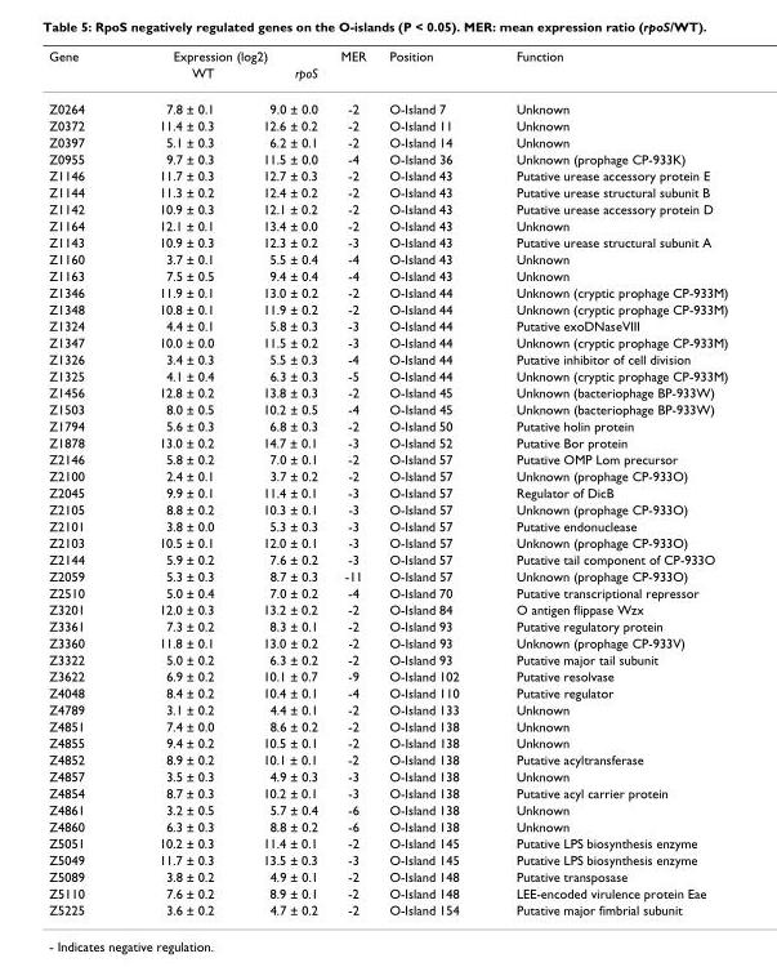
<table><thead><tr><td rowspan="2">Gene</td><td colspan="2">Expression (log2)</td><td rowspan="2">MER</td><td rowspan="2">Position</td><td rowspan="2">Function</td></tr><tr><td>WT</td><td>rpoS</td></tr></thead><tbody><tr><td>Z0264</td><td>7.8 ± 0.1</td><td>9.0 ± 0.0</td><td>-2</td><td>O-Island 7</td><td>Unknown</td></tr><tr><td>Z0372</td><td>11.4 ± 0.3</td><td>12.6 ± 0.2</td><td>-2</td><td>O-Island 11</td><td>Unknown</td></tr><tr><td>Z0397</td><td>5.1 ± 0.3</td><td>6.2 ± 0.1</td><td>-2</td><td>O-Island 14</td><td>Unknown</td></tr><tr><td>Z0955</td><td>9.7 ± 0.3</td><td>11.5 ± 0.0</td><td>-4</td><td>O-Island 36</td><td>Unknown (prophage CP-933K)</td></tr><tr><td>Z1146</td><td>11.7 ± 0.3</td><td>12.7 ± 0.3</td><td>-2</td><td>O-Island 43</td><td>Putative urease accessory protein E</td></tr><tr><td>Z1144</td><td>11.3 ± 0.2</td><td>12.4 ± 0.2</td><td>-2</td><td>O-Island 43</td><td>Putative urease structural subunit B</td></tr><tr><td>Z1142</td><td>10.9 ± 0.3</td><td>12.1 ± 0.2</td><td>-2</td><td>O-Island 43</td><td>Putative urease accessory protein D</td></tr><tr><td>Z1164</td><td>12.1 ± 0.1</td><td>13.4 ± 0.0</td><td>-2</td><td>O-Island 43</td><td>Unknown</td></tr><tr><td>Z1143</td><td>10.9 ± 0.3</td><td>12.3 ± 0.2</td><td>-3</td><td>O-Island 43</td><td>Putative urease structural subunit A</td></tr><tr><td>Z1160</td><td>3.7 ± 0.1</td><td>5.5 ± 0.4</td><td>-4</td><td>O-Island 43</td><td>Unknown</td></tr><tr><td>Z1163</td><td>7.5 ± 0.5</td><td>9.4 ± 0.4</td><td>-4</td><td>O-Island 43</td><td>Unknown</td></tr><tr><td>Z1346</td><td>11.9 ± 0.1</td><td>13.0 ± 0.2</td><td>-2</td><td>O-Island 44</td><td>Unknown (cryptic prophage CP-933M)</td></tr><tr><td>Z1348</td><td>10.8 ± 0.1</td><td>11.9 ± 0.2</td><td>-2</td><td>O-Island 44</td><td>Unknown (cryptic prophage CP-933M)</td></tr><tr><td>Z1324</td><td>4.4 ± 0.1</td><td>5.8 ± 0.3</td><td>-3</td><td>O-Island 44</td><td>Putative exoDNaseVIII</td></tr><tr><td>Z1347</td><td>10.0 ± 0.0</td><td>11.5 ± 0.2</td><td>-3</td><td>O-Island 44</td><td>Unknown (cryptic prophage CP-933M)</td></tr><tr><td>Z1326</td><td>3.4 ± 0.3</td><td>5.5 ± 0.3</td><td>-4</td><td>O-Island 44</td><td>Putative inhibitor of cell division</td></tr><tr><td>Z1325</td><td>4.1 ± 0.4</td><td>6.3 ± 0.3</td><td>-5</td><td>O-Island 44</td><td>Unknown (cryptic prophage CP-933M)</td></tr><tr><td>Z1456</td><td>12.8 ± 0.2</td><td>13.8 ± 0.3</td><td>-2</td><td>O-Island 45</td><td>Unknown (bacteriophage BP-933W)</td></tr><tr><td>Z1503</td><td>8.0 ± 0.5</td><td>10.2 ± 0.5</td><td>-4</td><td>O-Island 45</td><td>Unknown (bacteriophage BP-933W)</td></tr><tr><td>Z1794</td><td>5.6 ± 0.3</td><td>6.8 ± 0.3</td><td>-2</td><td>O-Island 50</td><td>Putative holin protein</td></tr><tr><td>Z1878</td><td>13.0 ± 0.2</td><td>14.7 ± 0.1</td><td>-3</td><td>O-Island 52</td><td>Putative Bor protein</td></tr><tr><td>Z2146</td><td>5.8 ± 0.2</td><td>7.0 ± 0.1</td><td>-2</td><td>O-Island 57</td><td>Putative OMP Lom precursor</td></tr><tr><td>Z2100</td><td>2.4 ± 0.1</td><td>3.7 ± 0.2</td><td>-2</td><td>O-Island 57</td><td>Unknown (prophage CP-933O)</td></tr><tr><td>Z2045</td><td>9.9 ± 0.1</td><td>11.4 ± 0.1</td><td>-3</td><td>O-Island 57</td><td>Regulator of DicB</td></tr><tr><td>Z2105</td><td>8.8 ± 0.2</td><td>10.3 ± 0.1</td><td>-3</td><td>O-Island 57</td><td>Unknown (prophage CP-933O)</td></tr><tr><td>Z2101</td><td>3.8 ± 0.0</td><td>5.3 ± 0.3</td><td>-3</td><td>O-Island 57</td><td>Putative endonuclease</td></tr><tr><td>Z2103</td><td>10.5 ± 0.1</td><td>12.0 ± 0.1</td><td>-3</td><td>O-Island 57</td><td>Unknown (prophage CP-933O)</td></tr><tr><td>Z2144</td><td>5.9 ± 0.2</td><td>7.6 ± 0.2</td><td>-3</td><td>O-Island 57</td><td>Putative tail component of CP-933O</td></tr><tr><td>Z2059</td><td>5.3 ± 0.3</td><td>8.7 ± 0.3</td><td>-11</td><td>O-Island 57</td><td>Unknown (prophage CP-933O)</td></tr><tr><td>Z2510</td><td>5.0 ± 0.4</td><td>7.0 ± 0.2</td><td>-4</td><td>O-Island 70</td><td>Putative transcriptional repressor</td></tr><tr><td>Z3201</td><td>12.0 ± 0.3</td><td>13.2 ± 0.2</td><td>-2</td><td>O-Island 84</td><td>O antigen flippase Wzx</td></tr><tr><td>Z3361</td><td>7.3 ± 0.2</td><td>8.3 ± 0.1</td><td>-2</td><td>O-Island 93</td><td>Putative regulatory protein</td></tr><tr><td>Z3360</td><td>11.8 ± 0.1</td><td>13.0 ± 0.2</td><td>-2</td><td>O-Island 93</td><td>Unknown (prophage CP-933V)</td></tr><tr><td>Z3322</td><td>5.0 ± 0.2</td><td>6.3 ± 0.2</td><td>-2</td><td>O-Island 93</td><td>Putative major tail subunit</td></tr><tr><td>Z3622</td><td>6.9 ± 0.2</td><td>10.1 ± 0.7</td><td>-9</td><td>O-Island 102</td><td>Putative resolvase</td></tr><tr><td>Z4048</td><td>8.4 ± 0.2</td><td>10.4 ± 0.1</td><td>-4</td><td>O-Island 110</td><td>Putative regulator</td></tr><tr><td>Z4789</td><td>3.1 ± 0.2</td><td>4.4 ± 0.1</td><td>-2</td><td>O-Island 133</td><td>Unknown</td></tr><tr><td>Z4851</td><td>7.4 ± 0.0</td><td>8.6 ± 0.2</td><td>-2</td><td>O-Island 138</td><td>Unknown</td></tr><tr><td>Z4855</td><td>9.4 ± 0.2</td><td>10.5 ± 0.1</td><td>-2</td><td>O-Island 138</td><td>Unknown</td></tr><tr><td>Z4852</td><td>8.9 ± 0.2</td><td>10.1 ± 0.1</td><td>-2</td><td>O-Island 138</td><td>Putative acyltransferase</td></tr><tr><td>Z4857</td><td>3.5 ± 0.3</td><td>4.9 ± 0.3</td><td>-3</td><td>O-Island 138</td><td>Unknown</td></tr><tr><td>Z4854</td><td>8.7 ± 0.3</td><td>10.2 ± 0.1</td><td>-3</td><td>O-Island 138</td><td>Putative acyl carrier protein</td></tr><tr><td>Z4861</td><td>3.2 ± 0.5</td><td>5.7 ± 0.4</td><td>-6</td><td>O-Island 138</td><td>Unknown</td></tr><tr><td>Z4860</td><td>6.3 ± 0.3</td><td>8.8 ± 0.2</td><td>-6</td><td>O-Island 138</td><td>Unknown</td></tr><tr><td>Z5051</td><td>10.2 ± 0.3</td><td>11.4 ± 0.1</td><td>-2</td><td>O-Island 145</td><td>Putative LPS biosynthesis enzyme</td></tr><tr><td>Z5049</td><td>11.7 ± 0.3</td><td>13.5 ± 0.3</td><td>-3</td><td>O-Island 145</td><td>Putative LPS biosynthesis enzyme</td></tr><tr><td>Z5089</td><td>3.8 ± 0.2</td><td>4.9 ± 0.1</td><td>-2</td><td>O-Island 148</td><td>Putative transposase</td></tr><tr><td>Z5110</td><td>7.6 ± 0.2</td><td>8.9 ± 0.1</td><td>-2</td><td>O-Island 148</td><td>LEE-encoded virulence protein Eae</td></tr><tr><td>Z5225</td><td>3.6 ± 0.2</td><td>4.7 ± 0.2</td><td>-2</td><td>O-Island 154</td><td>Putative major fimbrial subunit</td></tr></tbody></table>